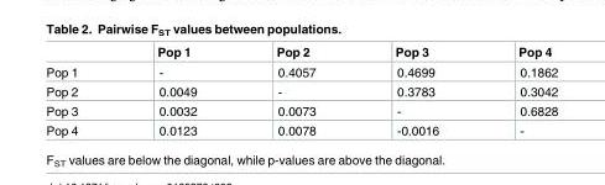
<table><thead><tr><td></td><td>Pop 1</td><td>Pop 2</td><td>Pop 3</td><td>Pop 4</td></tr></thead><tbody><tr><td>Pop 1</td><td>-</td><td>0.4057</td><td>0.4699</td><td>0.1862</td></tr><tr><td>Pop 2</td><td>0.0049</td><td>-</td><td>0.3783</td><td>0.3042</td></tr><tr><td>Pop 3</td><td>0.0032</td><td>0.0073</td><td>-</td><td>0.6828</td></tr><tr><td>Pop 4</td><td>0.0123</td><td>0.0078</td><td>-0.0016</td><td>-</td></tr></tbody></table>